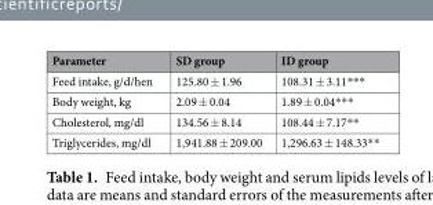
<table><thead><tr><td>Parameter</td><td>SD group</td><td>ID group</td></tr></thead><tbody><tr><td>Feed intake, g/d/hen</td><td>125.80 ± 1.96</td><td>108.31 ± 3.11***</td></tr><tr><td>Body weight, kg</td><td>2.09 ± 0.04</td><td>1.89 ± 0.04***</td></tr><tr><td>Cholesterol, mg/dl</td><td>134.56 ± 8.14</td><td>108.44 ± 7.17**</td></tr><tr><td>Triglycerides, mg/dl</td><td>1,941.88 ± 209.00</td><td>1,296.63 ± 148.33**</td></tr></tbody></table>